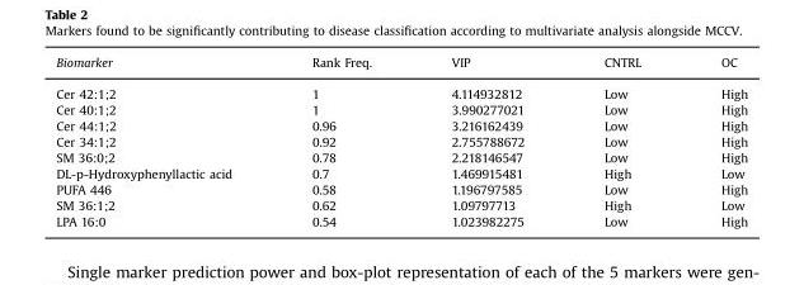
<table><thead><tr><td>Biomarker</td><td>Rank Freq.</td><td>VIP</td><td>CNTRL</td><td>OC</td></tr></thead><tbody><tr><td>Cer 42:1;2</td><td>1</td><td>4.114932812</td><td>Low</td><td>High</td></tr><tr><td>Cer 40:1;2</td><td>1</td><td>3.990277021</td><td>Low</td><td>High</td></tr><tr><td>Cer 44:1;2</td><td>0.96</td><td>3.216162439</td><td>Low</td><td>High</td></tr><tr><td>Cer 34:1;2</td><td>0.92</td><td>2.755788672</td><td>Low</td><td>High</td></tr><tr><td>SM 36:0;2</td><td>0.78</td><td>2.218146547</td><td>Low</td><td>High</td></tr><tr><td>DL-p-Hydroxyphenyllactic acid</td><td>0.7</td><td>1.469915481</td><td>High</td><td>Low</td></tr><tr><td>PUFA 446</td><td>0.58</td><td>1.196797585</td><td>Low</td><td>High</td></tr><tr><td>SM 36:1;2</td><td>0.62</td><td>1.09797713</td><td>High</td><td>Low</td></tr><tr><td>LPA 16:0</td><td>0.54</td><td>1.023982275</td><td>Low</td><td>High</td></tr></tbody></table>